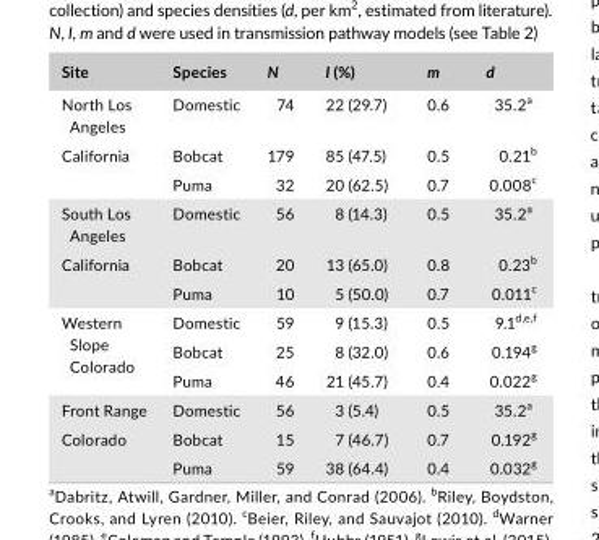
<table><thead><tr><td>Site</td><td>Species</td><td>N</td><td>I (%)</td><td>m</td><td>d</td></tr></thead><tbody><tr><td>North Los Angeles</td><td>Domestic</td><td>74</td><td>22 (29.7)</td><td>0.6</td><td>35.2<sup>a</sup></td></tr><tr><td rowspan="2">California</td><td>Bobcat</td><td>179</td><td>85 (47.5)</td><td>0.5</td><td>0.21<sup>b</sup></td></tr><tr><td>Puma</td><td>32</td><td>20 (62.5)</td><td>0.7</td><td>0.008<sup>c</sup></td></tr><tr><td>South Los Angeles</td><td>Domestic</td><td>56</td><td>8 (14.3)</td><td>0.5</td><td>35.2<sup>a</sup></td></tr><tr><td rowspan="2">California</td><td>Bobcat</td><td>20</td><td>13 (65.0)</td><td>0.8</td><td>0.23<sup>b</sup></td></tr><tr><td>Puma</td><td>10</td><td>5 (50.0)</td><td>0.7</td><td>0.011<sup>c</sup></td></tr><tr><td rowspan="3">Western Slope Colorado</td><td>Domestic</td><td>59</td><td>9 (15.3)</td><td>0.5</td><td>9.1<sup>d,</sup>e<sup>,</sup>f</td></tr><tr><td>Bobcat</td><td>25</td><td>8 (32.0)</td><td>0.6</td><td>0.194<sup>g</sup></td></tr><tr><td>Puma</td><td>46</td><td>21 (45.7)</td><td>0.4</td><td>0.022<sup>g</sup></td></tr><tr><td>Front Range</td><td>Domestic</td><td>56</td><td>3 (5.4)</td><td>0.5</td><td>35.2<sup>a</sup></td></tr><tr><td rowspan="2">Colorado</td><td>Bobcat</td><td>15</td><td>7 (46.7)</td><td>0.7</td><td>0.192<sup>g</sup></td></tr><tr><td>Puma</td><td>59</td><td>38 (64.4)</td><td>0.4</td><td>0.032<sup>g</sup></td></tr></tbody></table>